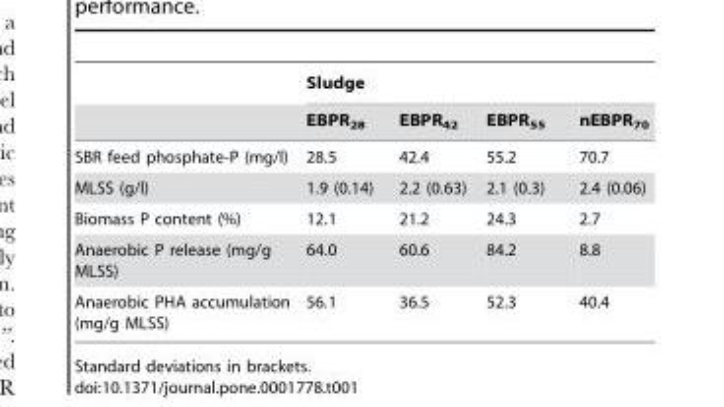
<table><thead><tr><td rowspan="2"></td><td colspan="4">Sludge</td></tr><tr><td>EBPR<sub>28</sub></td><td>EBPR<sub>42</sub></td><td>EBPR<sub>55</sub></td><td>nEBPR<sub>70</sub></td></tr></thead><tbody><tr><td>SBR feed phosphate-P (mg/l)</td><td>28.5</td><td>42.4</td><td>55.2</td><td>70.7</td></tr><tr><td>MLSS (g/l)</td><td>1.9 (0.14)</td><td>2.2 (0.63)</td><td>2.1 (0.3)</td><td>2.4 (0.06)</td></tr><tr><td>Biomass P content (%)</td><td>12.1</td><td>21.2</td><td>24.3</td><td>2.7</td></tr><tr><td>Anaerobic P release (mg/g MLSS)</td><td>64.0</td><td>60.6</td><td>84.2</td><td>8.8</td></tr><tr><td>Anaerobic PHA accumulation (mg/g MLSS)</td><td>56.1</td><td>36.5</td><td>52.3</td><td>40.4</td></tr></tbody></table>